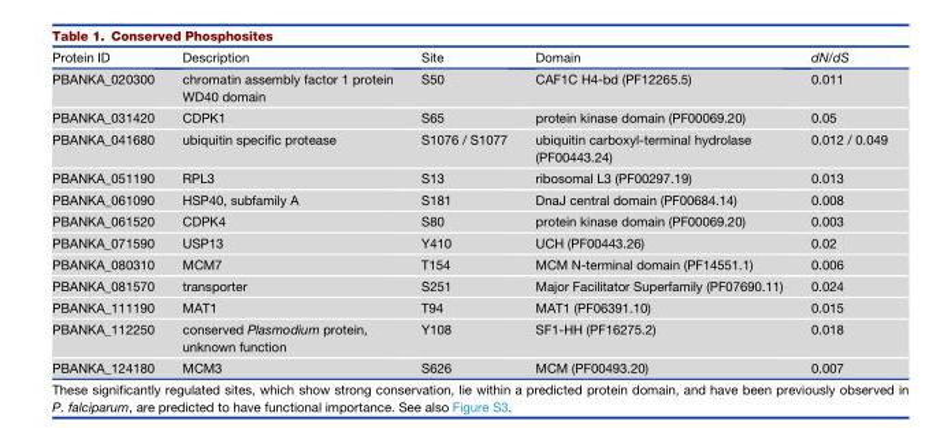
<table><thead><tr><td>Protein ID</td><td>Description</td><td>Site</td><td>Domain</td><td>dN/dS</td></tr></thead><tbody><tr><td>PBANKA_020300</td><td>chromatin assembly factor 1 protein WD40 domain</td><td>S50</td><td>CAF1C H4-bd (PF12265.5)</td><td>0.011</td></tr><tr><td>PBANKA_031420</td><td>CDPK1</td><td>S65</td><td>protein kinase domain (PF00069.20)</td><td>0.05</td></tr><tr><td>PBANKA_041680</td><td>ubiquitin specific protease</td><td>S1076 / S1077</td><td>ubiquitin carboxyl-terminal hydrolase (PF00443.24)</td><td>0.012 / 0.049</td></tr><tr><td>PBANKA_051190</td><td>RPL3</td><td>S13</td><td>ribosomal L3 (PF00297.19)</td><td>0.013</td></tr><tr><td>PBANKA_061090</td><td>HSP40, subfamily A</td><td>S181</td><td>DnaJ central domain (PF00684.14)</td><td>0.008</td></tr><tr><td>PBANKA_061520</td><td>CDPK4</td><td>S80</td><td>protein kinase domain (PF00069.20)</td><td>0.003</td></tr><tr><td>PBANKA_071590</td><td>USP13</td><td>Y410</td><td>UCH (PF00443.26)</td><td>0.02</td></tr><tr><td>PBANKA_080310</td><td>MCM7</td><td>T154</td><td>MCM N-terminal domain (PF14551.1)</td><td>0.006</td></tr><tr><td>PBANKA_081570</td><td>transporter</td><td>S251</td><td>Major Facilitator Superfamily (PF07690.11)</td><td>0.024</td></tr><tr><td>PBANKA_111190</td><td>MAT1</td><td>T94</td><td>MAT1 (PF06391.10)</td><td>0.015</td></tr><tr><td>PBANKA_112250</td><td>conserved Plasmodium protein, unknown function</td><td>Y108</td><td>SF1-HH (PF16275.2)</td><td>0.018</td></tr><tr><td>PBANKA_124180</td><td>MCM3</td><td>S626</td><td>MCM (PF00493.20)</td><td>0.007</td></tr></tbody></table>